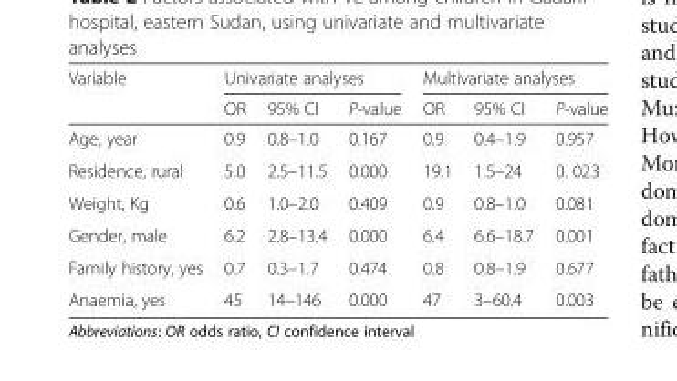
<table><thead><tr><td rowspan="2">Variable</td><td colspan="3">Univariate analyses</td><td colspan="3">Multivariate analyses</td></tr><tr><td>OR</td><td>95% CI</td><td>P-value</td><td>OR</td><td>95% CI</td><td>P-value</td></tr></thead><tbody><tr><td>Age, year</td><td>0.9</td><td>0.8–1.0</td><td>0.167</td><td>0.9</td><td>0.4–1.9</td><td>0.957</td></tr><tr><td>Residence, rural</td><td>5.0</td><td>2.5–11.5</td><td>0.000</td><td>19.1</td><td>1.5–24</td><td>0. 023</td></tr><tr><td>Weight, Kg</td><td>0.6</td><td>1.0–2.0</td><td>0.409</td><td>0.9</td><td>0.8–1.0</td><td>0.081</td></tr><tr><td>Gender, male</td><td>6.2</td><td>2.8–13.4</td><td>0.000</td><td>6.4</td><td>6.6–18.7</td><td>0.001</td></tr><tr><td>Family history, yes</td><td>0.7</td><td>0.3–1.7</td><td>0.474</td><td>0.8</td><td>0.8–1.9</td><td>0.677</td></tr><tr><td>Anaemia, yes</td><td>45</td><td>14–146</td><td>0.000</td><td>47</td><td>3–60.4</td><td>0.003</td></tr></tbody></table>